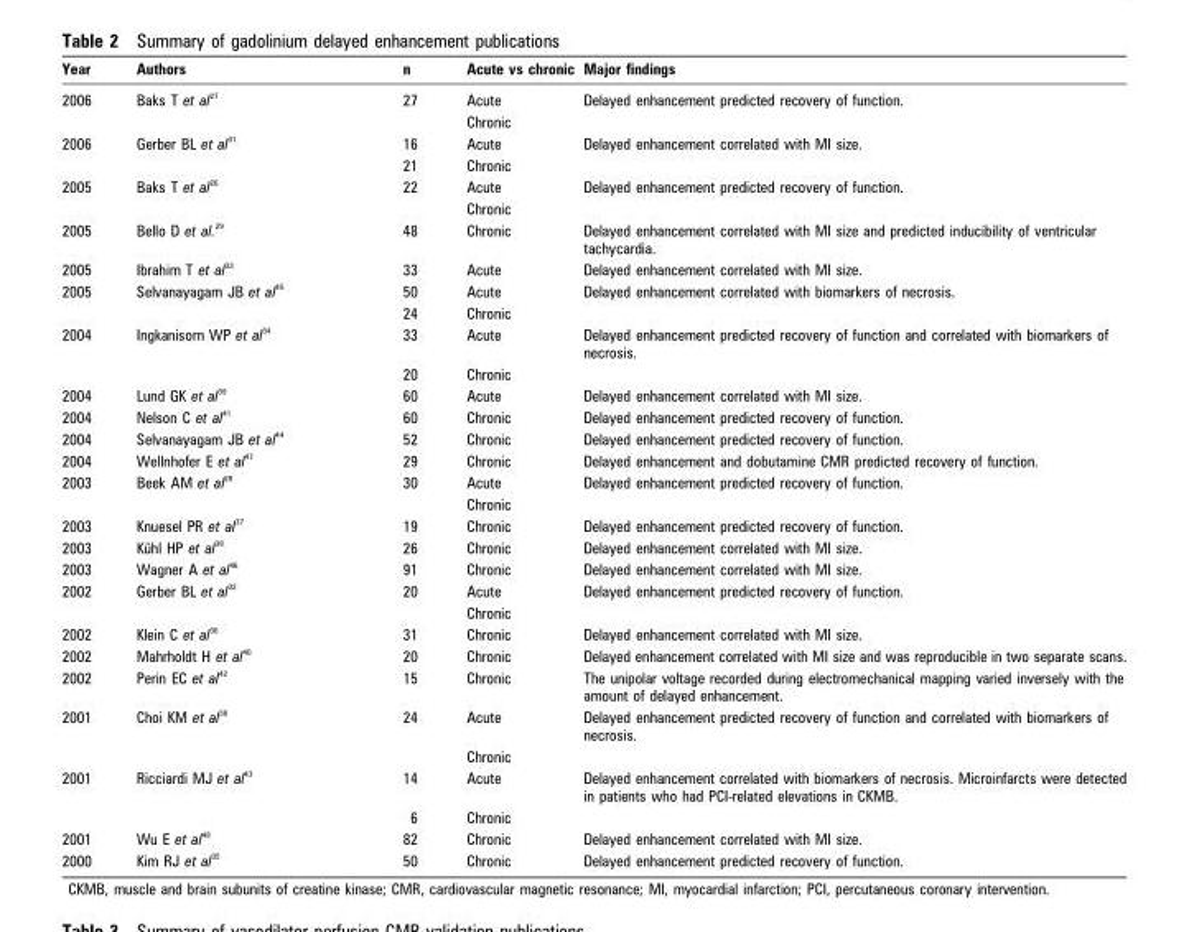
<table><thead><tr><td>Year</td><td>Authors</td><td>n</td><td>Acute vs chronic</td><td>Major findings</td></tr></thead><tbody><tr><td rowspan="2">2006</td><td>Baks T et al <sup>27</sup></td><td>27</td><td>Acute</td><td>Delayed enhancement predicted recovery of function.</td></tr><tr><td></td><td></td><td>Chronic</td><td></td></tr><tr><td rowspan="2">2006</td><td>Gerber BL et al <sup>31</sup></td><td>16</td><td>Acute</td><td>Delayed enhancement correlated with MI size.</td></tr><tr><td></td><td>21</td><td>Chronic</td><td></td></tr><tr><td rowspan="2">2005</td><td>Baks T et al <sup>26</sup></td><td>22</td><td>Acute</td><td>Delayed enhancement predicted recovery of function.</td></tr><tr><td></td><td></td><td>Chronic</td><td></td></tr><tr><td>2005</td><td>Bello D et al. <sup>29</sup></td><td>48</td><td>Chronic</td><td>Delayed enhancement correlated with MI size and predicted inducibility of ventricular tachycardia.</td></tr><tr><td>2005</td><td>Ibrahim T et al <sup>33</sup></td><td>33</td><td>Acute</td><td>Delayed enhancement correlated with MI size.</td></tr><tr><td rowspan="2">2005</td><td>Selvanayagam JB et al <sup>45</sup></td><td>50</td><td>Acute</td><td>Delayed enhancement correlated with biomarkers of necrosis.</td></tr><tr><td></td><td>24</td><td>Chronic</td><td></td></tr><tr><td rowspan="2">2004</td><td>Ingkanisorn WP et al <sup>34</sup></td><td>33</td><td>Acute</td><td>Delayed enhancement predicted recovery of function and correlated with biomarkers of necrosis.</td></tr><tr><td></td><td>20</td><td>Chronic</td><td></td></tr><tr><td>2004</td><td>Lund GK et al <sup>39</sup></td><td>60</td><td>Acute</td><td>Delayed enhancement correlated with MI size.</td></tr><tr><td>2004</td><td>Nelson C et al <sup>41</sup></td><td>60</td><td>Chronic</td><td>Delayed enhancement predicted recovery of function.</td></tr><tr><td>2004</td><td>Selvanayagam JB et al <sup>44</sup></td><td>52</td><td>Chronic</td><td>Delayed enhancement predicted recovery of function.</td></tr><tr><td>2004</td><td>Wellnhofer E et al <sup>47</sup></td><td>29</td><td>Chronic</td><td>Delayed enhancement and dobutamine CMR predicted recovery of function.</td></tr><tr><td rowspan="2">2003</td><td>Beek AM et al <sup>28</sup></td><td>30</td><td>Acute</td><td>Delayed enhancement predicted recovery of function.</td></tr><tr><td></td><td></td><td>Chronic</td><td></td></tr><tr><td>2003</td><td>Knuesel PR et al <sup>37</sup></td><td>19</td><td>Chronic</td><td>Delayed enhancement predicted recovery of function.</td></tr><tr><td>2003</td><td>Ku¨hl HP et al 38</td><td>26</td><td>Chronic</td><td>Delayed enhancement correlated with MI size.</td></tr><tr><td>2003</td><td>Wagner A et al <sup>46</sup></td><td>91</td><td>Chronic</td><td>Delayed enhancement correlated with MI size.</td></tr><tr><td rowspan="2">2002</td><td>Gerber BL et al <sup>32</sup></td><td>20</td><td>Acute</td><td>Delayed enhancement predicted recovery of function.</td></tr><tr><td></td><td></td><td>Chronic</td><td></td></tr><tr><td>2002</td><td>Klein C et al <sup>36</sup></td><td>31</td><td>Chronic</td><td>Delayed enhancement correlated with MI size.</td></tr><tr><td>2002</td><td>Mahrholdt H et al <sup>40</sup></td><td>20</td><td>Chronic</td><td>Delayed enhancement correlated with MI size and was reproducible in two separate scans.</td></tr><tr><td>2002</td><td>Perin EC et al <sup>42</sup></td><td>15</td><td>Chronic</td><td>The unipolar voltage recorded during electromechanical mapping varied inversely with the amount of delayed enhancement.</td></tr><tr><td rowspan="2">2001</td><td>Choi KM et al <sup>30</sup></td><td>24</td><td>Acute</td><td>Delayed enhancement predicted recovery of function and correlated with biomarkers of necrosis.</td></tr><tr><td></td><td></td><td>Chronic</td><td></td></tr><tr><td rowspan="2">2001</td><td>Ricciardi MJ et al <sup>43</sup></td><td>14</td><td>Acute</td><td>Delayed enhancement correlated with biomarkers of necrosis. Microinfarcts were detected in patients who had PCI-related elevations in CKMB.</td></tr><tr><td></td><td>6</td><td>Chronic</td><td></td></tr><tr><td>2001</td><td>Wu E et al <sup>48</sup></td><td>82</td><td>Chronic</td><td>Delayed enhancement correlated with MI size.</td></tr><tr><td>2000</td><td>Kim RJ et al <sup>35</sup></td><td>50</td><td>Chronic</td><td>Delayed enhancement predicted recovery of function.</td></tr></tbody></table>